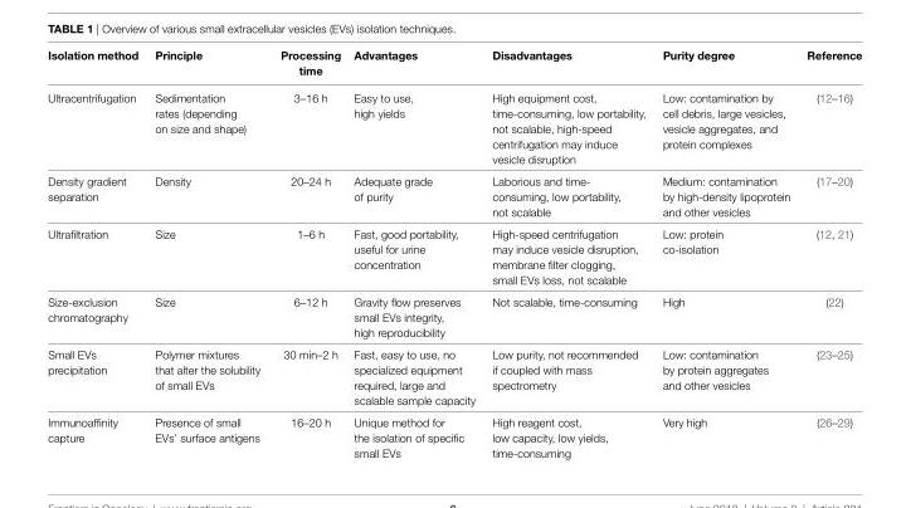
<table><thead><tr><td>isolation method</td><td>Principle</td><td>Processing time</td><td>advantages</td><td>Disadvantages</td><td>Purity degree</td><td>Reference</td></tr></thead><tbody><tr><td>Ultracentrifugation</td><td>Sedimentation rates (depending on size and shape)</td><td>3–16 h</td><td>Easy to use, high yields</td><td>High equipment cost, timeconsuming, low portability, not scalable, highspeed centrifugation may induce vesicle disruption</td><td>Low: contamination by cell debris, large vesicles, vesicle aggregates, and protein complexes</td><td>(12–16)</td></tr><tr><td>Density gradient separation</td><td>Density</td><td>20–24 h</td><td>Adequate grade of purity</td><td>Laborious and time consuming, low portability, not scalable</td><td>Medium: contamination by highdensity lipoprotein and other vesicles</td><td>(17–20)</td></tr><tr><td>Ultrafiltration</td><td>Size</td><td>1–6 h</td><td>Fast, good portability, useful for urine concentration</td><td>Highspeed centrifugation may induce vesicle disruption, membrane filter clogging, small EVs loss, not scalable</td><td>Low: protein coisolation</td><td>(12, 21)</td></tr><tr><td>Sizeexclusion chromatography</td><td>Size</td><td>6–12 h</td><td>Gravity flow preserves small EVs integrity, high reproducibility</td><td>Not scalable, timeconsuming</td><td>High</td><td>(22)</td></tr><tr><td>Small EVs precipitation</td><td>Polymer mixtures that alter the solubility of small EVs</td><td>30 min–2 h</td><td>Fast, easy to use, no specialized equipment required, large and scalable sample capacity</td><td>Low purity, not recommended if coupled with mass spectrometry</td><td>Low: contamination by protein aggregates and other vesicles</td><td>(23–25)</td></tr><tr><td>Immunoaffinity capture</td><td>Presence of small EVs’ surface antigens</td><td>16–20 h</td><td>Unique method for the isolation of specific small EVs</td><td>High reagent cost, low capacity, low yields, timeconsuming</td><td>Very high</td><td>(26–29)</td></tr></tbody></table>